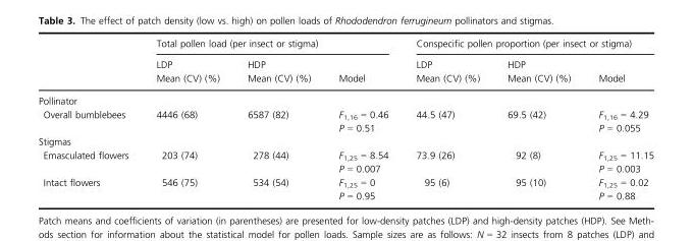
<table><thead><tr><td rowspan="2"></td><td colspan="3">Total pollen load (per insect or stigma)</td><td colspan="3">Conspecific pollen proportion (per insect or stigma)</td></tr><tr><td>LDP Mean (CV) (%)</td><td>HDP Mean (CV) (%)</td><td>Model</td><td>LDP Mean (CV) (%)</td><td>HDP Mean (CV) (%)</td><td>Model</td></tr></thead><tbody><tr><td colspan="7">Pollinator</td></tr><tr><td>Overall bumblebees</td><td>4446 (68)</td><td>6587 (82)</td><td>F<sub>1,16</sub> = 0.46 P = 0.51</td><td>44.5 (47)</td><td>69.5 (42)</td><td>F<sub>1,16</sub> = 4.29 P = 0.055</td></tr><tr><td colspan="7">Stigmas</td></tr><tr><td>Emasculated flowers</td><td>203 (74)</td><td>278 (44)</td><td>F<sub>1,25</sub> = 8.54 P = 0.007</td><td>73.9 (26)</td><td>92 (8)</td><td>F<sub>1,25</sub> = 11.15 P = 0.003</td></tr><tr><td>Intact flowers</td><td>546 (75)</td><td>534 (54)</td><td>F<sub>1,25</sub> = 0 P = 0.95</td><td>95 (6)</td><td>95 (10)</td><td>F<sub>1,25</sub> = 0.02 P = 0.88</td></tr></tbody></table>